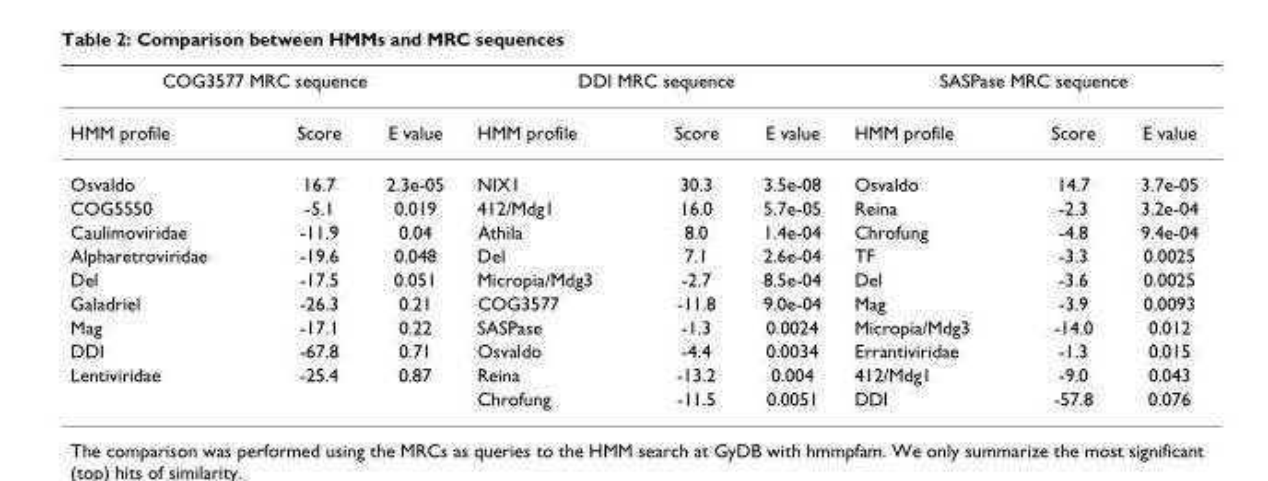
<table><thead><tr><td colspan="3">COG3577 MRC sequence</td><td colspan="3">DDI MRC sequence</td><td colspan="3">SASPase MRC sequence</td></tr><tr><td>HMM profile</td><td>Score</td><td>E value</td><td>HMM profile</td><td>Score</td><td>E value</td><td>HMM profile</td><td>Score</td><td>E value</td></tr></thead><tbody><tr><td>Osvaldo</td><td>16.7</td><td>2.3e-05</td><td>NIX1</td><td>30.3</td><td>3.5e-08</td><td>Osvaldo</td><td>14.7</td><td>3.7e-05</td></tr><tr><td>COG5550</td><td>-5.1</td><td>0.019</td><td>412/Mdg1</td><td>16.0</td><td>5.7e-05</td><td>Reina</td><td>-2.3</td><td>3.2e-04</td></tr><tr><td>Caulimoviridae</td><td>-11.9</td><td>0.04</td><td>Athila</td><td>8.0</td><td>1.4e-04</td><td>Chrofung</td><td>-4.8</td><td>9.4e-04</td></tr><tr><td>Alpharetroviridae</td><td>-19.6</td><td>0.048</td><td>Del</td><td>7.1</td><td>2.6e-04</td><td>TF</td><td>-3.3</td><td>0.0025</td></tr><tr><td>Del</td><td>-17.5</td><td>0.051</td><td>Micropia/Mdg3</td><td>-2.7</td><td>8.5e-04</td><td>Del</td><td>-3.6</td><td>0.0025</td></tr><tr><td>Galadriel</td><td>-26.3</td><td>0.21</td><td>COG3577</td><td>-11.8</td><td>9.0e-04</td><td>Mag</td><td>-3.9</td><td>0.0093</td></tr><tr><td>Mag</td><td>-17.1</td><td>0.22</td><td>SASPase</td><td>-1.3</td><td>0.0024</td><td>Micropia/Mdg3</td><td>-14.0</td><td>0.012</td></tr><tr><td>DDI</td><td>-67.8</td><td>0.71</td><td>Osvaldo</td><td>-4.4</td><td>0.0034</td><td>Errantiviridae</td><td>-1.3</td><td>0.015</td></tr><tr><td rowspan="2">Lentiviridae</td><td>-25.4</td><td>0.87</td><td>Reina</td><td>-13.2</td><td>0.004</td><td>412/Mdg1</td><td>-9.0</td><td>0.043</td></tr><tr><td></td><td></td><td>Chrofung</td><td>-11.5</td><td>0.0051</td><td>DDI</td><td>-57.8</td><td>0.076</td></tr></tbody></table>